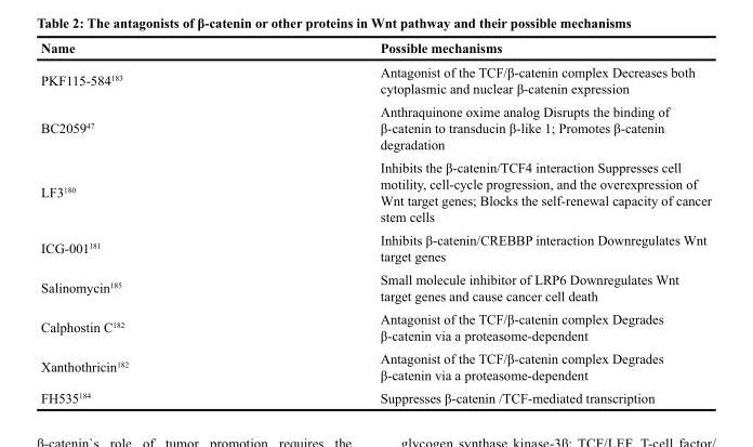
<table><thead><tr><td>Name</td><td>Possible mechanisms</td></tr></thead><tbody><tr><td>PKF115-584<sup>183</sup></td><td>Antagonist of the TCF/β-catenin complex Decreases both cytoplasmic and nuclear β-catenin expression</td></tr><tr><td>BC2059<sup>47</sup></td><td>Anthraquinone oxime analog Disrupts the binding of β-catenin to transducin β-like 1; Promotes β-catenin degradation</td></tr><tr><td>LF3<sup>180</sup></td><td>Inhibits the β-catenin/TCF4 interaction Suppresses cell motility, cell-cycle progression, and the overexpression of Wnt target genes; Blocks the self-renewal capacity of cancer stem cells</td></tr><tr><td>ICG-001<sup>181</sup></td><td>Inhibits β-catenin/CREBBP interaction Downregulates Wnt target genes</td></tr><tr><td>Salinomycin<sup>185</sup></td><td>Small molecule inhibitor of LRP6 Downregulates Wnt target genes and cause cancer cell death</td></tr><tr><td>Calphostin C<sup>182</sup></td><td>Antagonist of the TCF/β-catenin complex Degrades β-catenin via a proteasome-dependent</td></tr><tr><td>Xanthothricin<sup>182</sup></td><td>Antagonist of the TCF/β-catenin complex Degrades β-catenin via a proteasome-dependent</td></tr><tr><td>FH535<sup>184</sup></td><td>Suppresses β-catenin /TCF-mediated transcription</td></tr></tbody></table>